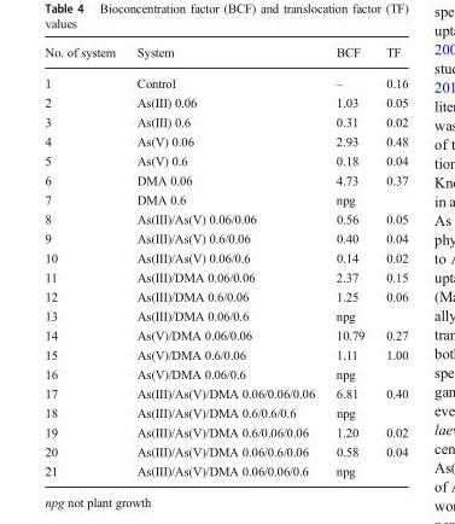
<table><thead><tr><td>No. of system</td><td>System</td><td>BCF</td><td>TF</td></tr></thead><tbody><tr><td>1</td><td>Control</td><td>–</td><td>0.16</td></tr><tr><td>2</td><td>As(III) 0.06</td><td>1.03</td><td>0.05</td></tr><tr><td>3</td><td>As(III) 0.6</td><td>0.31</td><td>0.02</td></tr><tr><td>4</td><td>As(V) 0.06</td><td>2.93</td><td>0.48</td></tr><tr><td>5</td><td>As(V) 0.6</td><td>0.18</td><td>0.04</td></tr><tr><td>6</td><td>DMA 0.06</td><td>4.73</td><td>0.37</td></tr><tr><td>7</td><td>DMA 0.6</td><td colspan="2">npg</td></tr><tr><td>8</td><td>As(III)/As(V) 0.06/0.06</td><td>0.56</td><td>0.05</td></tr><tr><td>9</td><td>As(III)/As(V) 0.6/0.06</td><td>0.40</td><td>0.04</td></tr><tr><td>10</td><td>As(III)/As(V) 0.06/0.6</td><td>0.14</td><td>0.02</td></tr><tr><td>11</td><td>As(III)/DMA 0.06/0.06</td><td>2.37</td><td>0.15</td></tr><tr><td>12</td><td>As(III)/DMA 0.6/0.06</td><td>1.25</td><td>0.06</td></tr><tr><td>13</td><td>As(III)/DMA 0.06/0.6</td><td colspan="2">npg</td></tr><tr><td>14</td><td>As(V)/DMA 0.06/0.06</td><td>10.79</td><td>0.27</td></tr><tr><td>15</td><td>As(V)/DMA 0.6/0.06</td><td>1.11</td><td>1.00</td></tr><tr><td>16</td><td>As(V)/DMA 0.06/0.6</td><td colspan="2">npg</td></tr><tr><td>17</td><td>As(III)/As(V)/DMA 0.06/0.06/0.06</td><td>6.81</td><td>0.40</td></tr><tr><td>18</td><td>As(III)/As(V)/DMA 0.6/0.6/0.6</td><td colspan="2">npg</td></tr><tr><td>19</td><td>As(III)/As(V)/DMA 0.6/0.06/0.06</td><td>1.20</td><td>0.02</td></tr><tr><td>20</td><td>As(III)/As(V)/DMA 0.06/0.6/0.06</td><td>0.58</td><td>0.04</td></tr><tr><td>21</td><td>As(III)/As(V)/DMA 0.06/0.06/0.6</td><td colspan="2">npg</td></tr></tbody></table>